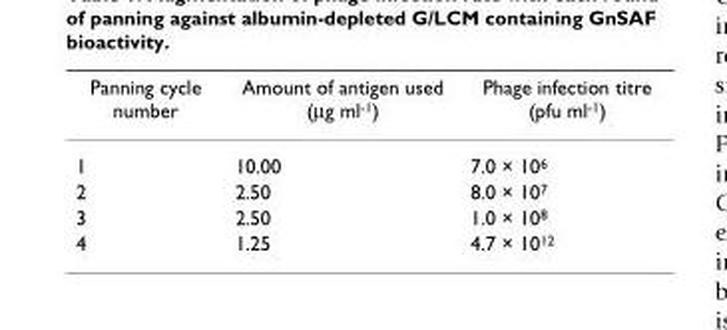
<table><thead><tr><td>Panning cycle number</td><td>Amount of antigen used (µg ml<sup>-1</sup>)</td><td>Phage infection titre (pfu ml<sup>-1</sup>)</td></tr></thead><tbody><tr><td>1</td><td>10.00</td><td>7.0 × 10<sup>6</sup></td></tr><tr><td>2</td><td>2.50</td><td>8.0 × 10<sup>7</sup></td></tr><tr><td>3</td><td>2.50</td><td>1.0 × 10<sup>8</sup></td></tr><tr><td>4</td><td>1.25</td><td>4.7 × 10<sup>12</sup></td></tr></tbody></table>